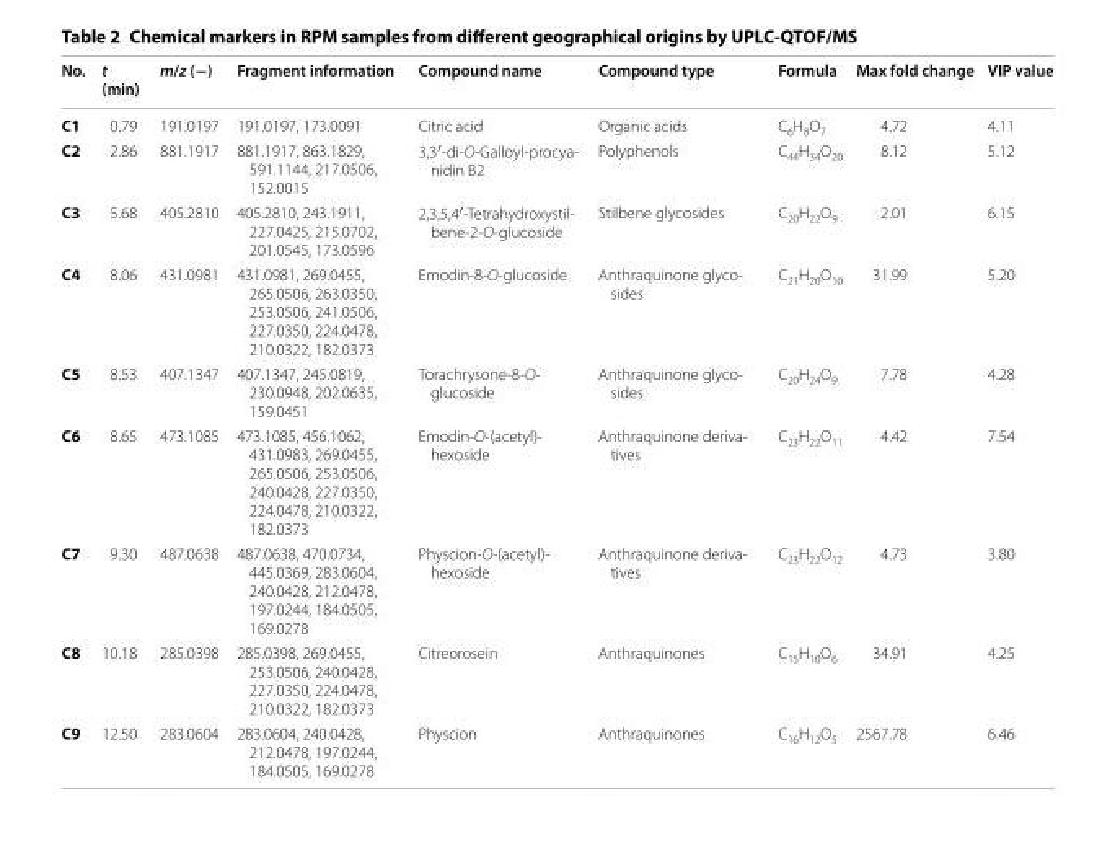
<table><thead><tr><td>No.</td><td>t (min)</td><td>m/z (−)</td><td>Fragment information</td><td>Compound name</td><td>Compound type</td><td>Formula</td><td>Max fold change</td><td>VIP value</td></tr></thead><tbody><tr><td>C1</td><td>0.79</td><td>191.0197</td><td>191.0197, 173.0091</td><td>Citric acid</td><td>Organic acids</td><td>C<sub>6</sub>H<sub>8</sub>O<sub>7</sub></td><td>4.72</td><td>4.11</td></tr><tr><td>C2</td><td>2.86</td><td>881.1917</td><td>881.1917, 863.1829, 591.1144, 217.0506, 152.0015</td><td>3,3′‑di‑O‑Galloyl‑procya‑ nidin B2</td><td>Polyphenols</td><td>C<sub>44</sub>H<sub>34</sub>O<sub>20</sub></td><td>8.12</td><td>5.12</td></tr><tr><td>C3</td><td>5.68</td><td>405.2810</td><td>405.2810, 243.1911, 227.0425, 215.0702, 201.0545, 173.0596</td><td>2,3,5,4′‑Tetrahydroxystil‑ bene‑2‑O‑glucoside</td><td>Stilbene glycosides</td><td>C<sub>20</sub>H<sub>22</sub>O<sub>9</sub></td><td>2.01</td><td>6.15</td></tr><tr><td>C4</td><td>8.06</td><td>431.0981</td><td>431.0981, 269.0455, 265.0506, 263.0350, 253.0506, 241.0506, 227.0350, 224.0478, 210.0322, 182.0373</td><td>Emodin‑8‑O‑glucoside</td><td>Anthraquinone glyco‑ sides</td><td>C<sub>21</sub>H<sub>20</sub>O<sub>10</sub></td><td>31.99</td><td>5.20</td></tr><tr><td>C5</td><td>8.53</td><td>407.1347</td><td>407.1347, 245.0819, 230.0948, 202.0635, 159.0451</td><td>Torachrysone‑8‑O‑ glucoside</td><td>Anthraquinone glyco‑ sides</td><td>C<sub>20</sub>H<sub>24</sub>O<sub>9</sub></td><td>7.78</td><td>4.28</td></tr><tr><td>C6</td><td>8.65</td><td>473.1085</td><td>473.1085, 456.1062, 431.0983, 269.0455, 265.0506, 253.0506, 240.0428, 227.0350, 224.0478, 210.0322, 182.0373</td><td>Emodin‑O‑(acetyl)‑ hexoside</td><td>Anthraquinone deriva‑ tives</td><td>C<sub>23</sub>H<sub>22</sub>O<sub>11</sub></td><td>4.42</td><td>7.54</td></tr><tr><td>C7</td><td>9.30</td><td>487.0638</td><td>487.0638, 470.0734, 445.0369, 283.0604, 240.0428, 212.0478, 197.0244, 184.0505, 169.0278</td><td>Physcion‑O‑(acetyl)‑ hexoside</td><td>Anthraquinone deriva‑ tives</td><td>C<sub>23</sub>H<sub>22</sub>O<sub>12</sub></td><td>4.73</td><td>3.80</td></tr><tr><td>C8</td><td>10.18</td><td>285.0398</td><td>285.0398, 269.0455, 253.0506, 240.0428, 227.0350, 224.0478, 210.0322, 182.0373</td><td>Citreorosein</td><td>Anthraquinones</td><td>C<sub>15</sub>H<sub>10</sub>O<sub>6</sub></td><td>34.91</td><td>4.25</td></tr><tr><td>C9</td><td>12.50</td><td>283.0604</td><td>283.0604, 240.0428, 212.0478, 197.0244, 184.0505, 169.0278</td><td>Physcion</td><td>Anthraquinones</td><td>C<sub>16</sub>H<sub>12</sub>O<sub>5</sub></td><td>2567.78</td><td>6.46</td></tr></tbody></table>